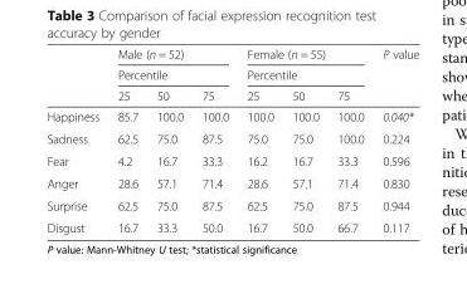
<table><thead><tr><td rowspan="3"></td><td rowspan="2" colspan="3">Male (n = 52) Percentile</td><td rowspan="2" colspan="3">Female (n = 55) Percentile</td><td rowspan="3">P value</td></tr><tr></tr><tr><td>25</td><td>50</td><td>75</td><td>25</td><td>50</td><td>75</td></tr></thead><tbody><tr><td>Happiness</td><td>85.7</td><td>100.0</td><td>100.0</td><td>100.0</td><td>100.0</td><td>100.0</td><td>0.040*</td></tr><tr><td>Sadness</td><td>62.5</td><td>75.0</td><td>87.5</td><td>75.0</td><td>75.0</td><td>100.0</td><td>0.224</td></tr><tr><td>Fear</td><td>4.2</td><td>16.7</td><td>33.3</td><td>16.2</td><td>16.7</td><td>33.3</td><td>0.596</td></tr><tr><td>Anger</td><td>28.6</td><td>57.1</td><td>71.4</td><td>28.6</td><td>57.1</td><td>71.4</td><td>0.830</td></tr><tr><td>Surprise</td><td>62.5</td><td>75.0</td><td>87.5</td><td>62.5</td><td>75.0</td><td>87.5</td><td>0.944</td></tr><tr><td>Disgust</td><td>16.7</td><td>33.3</td><td>50.0</td><td>16.7</td><td>50.0</td><td>66.7</td><td>0.117</td></tr></tbody></table>